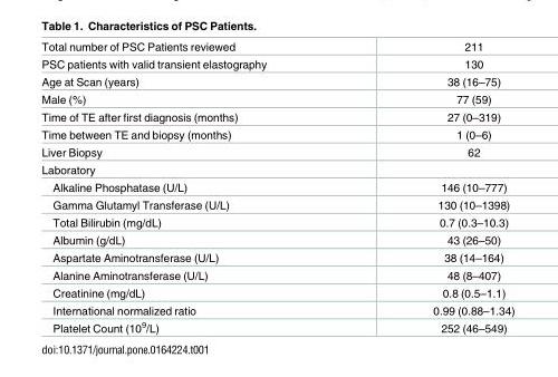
<table><tbody><tr><td>Total number of PSC Patients reviewed</td><td>211</td></tr><tr><td>PSC patients with valid transient elastography</td><td>130</td></tr><tr><td>Age at Scan (years)</td><td>38 (16–75)</td></tr><tr><td>Male (%)</td><td>77 (59)</td></tr><tr><td>Time of TE after first diagnosis (months)</td><td>27 (0–319)</td></tr><tr><td>Time between TE and biopsy (months)</td><td>1 (0–6)</td></tr><tr><td>Liver Biopsy</td><td>62</td></tr><tr><td colspan="2">Laboratory</td></tr><tr><td>Alkaline Phosphatase (U/L)</td><td>146 (10–777)</td></tr><tr><td>Gamma Glutamyl Transferase (U/L)</td><td>130 (10–1398)</td></tr><tr><td>Total Bilirubin (mg/dL)</td><td>0.7 (0.3–10.3)</td></tr><tr><td>Albumin (g/dL)</td><td>43 (26–50)</td></tr><tr><td>Aspartate Aminotransferase (U/L)</td><td>38 (14–164)</td></tr><tr><td>Alanine Aminotransferase (U/L)</td><td>48 (8–407)</td></tr><tr><td>Creatinine (mg/dL)</td><td>0.8 (0.5–1.1)</td></tr><tr><td>International normalized ratio</td><td>0.99 (0.88–1.34)</td></tr><tr><td>Platelet Count (10<sup>9</sup>/L)</td><td>252 (46–549)</td></tr></tbody></table>